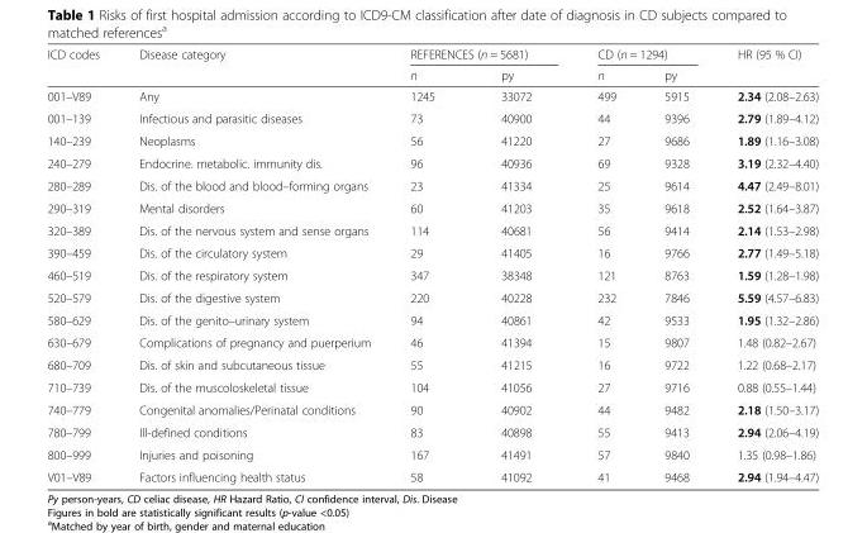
<table><thead><tr><td rowspan="2">ICD codes</td><td rowspan="2">Disease category</td><td colspan="2">REFERENCES (n = 5681)</td><td colspan="2">CD (n = 1294)</td><td rowspan="2">HR (95 % CI)</td></tr><tr><td>n</td><td>py</td><td>n</td><td>py</td></tr></thead><tbody><tr><td>001–V89</td><td>Any</td><td>1245</td><td>33072</td><td>499</td><td>5915</td><td>2.34 (2.08–2.63)</td></tr><tr><td>001–139</td><td>Infectious and parasitic diseases</td><td>73</td><td>40900</td><td>44</td><td>9396</td><td>2.79 (1.89–4.12)</td></tr><tr><td>140–239</td><td>Neoplasms</td><td>56</td><td>41220</td><td>27</td><td>9686</td><td>1.89 (1.16–3.08)</td></tr><tr><td>240–279</td><td>Endocrine. metabolic. immunity dis.</td><td>96</td><td>40936</td><td>69</td><td>9328</td><td>3.19 (2.32–4.40)</td></tr><tr><td>280–289</td><td>Dis. of the blood and blood–forming organs</td><td>23</td><td>41334</td><td>25</td><td>9614</td><td>4.47 (2.49–8.01)</td></tr><tr><td>290–319</td><td>Mental disorders</td><td>60</td><td>41203</td><td>35</td><td>9618</td><td>2.52 (1.64–3.87)</td></tr><tr><td>320–389</td><td>Dis. of the nervous system and sense organs</td><td>114</td><td>40681</td><td>56</td><td>9414</td><td>2.14 (1.53–2.98)</td></tr><tr><td>390–459</td><td>Dis. of the circulatory system</td><td>29</td><td>41405</td><td>16</td><td>9766</td><td>2.77 (1.49–5.18)</td></tr><tr><td>460–519</td><td>Dis. of the respiratory system</td><td>347</td><td>38348</td><td>121</td><td>8763</td><td>1.59 (1.28–1.98)</td></tr><tr><td>520–579</td><td>Dis. of the digestive system</td><td>220</td><td>40228</td><td>232</td><td>7846</td><td>5.59 (4.57–6.83)</td></tr><tr><td>580–629</td><td>Dis. of the genito–urinary system</td><td>94</td><td>40861</td><td>42</td><td>9533</td><td>1.95 (1.32–2.86)</td></tr><tr><td>630–679</td><td>Complications of pregnancy and puerperium</td><td>46</td><td>41394</td><td>15</td><td>9807</td><td>1.48 (0.82–2.67)</td></tr><tr><td>680–709</td><td>Dis. of skin and subcutaneous tissue</td><td>55</td><td>41215</td><td>16</td><td>9722</td><td>1.22 (0.68–2.17)</td></tr><tr><td>710–739</td><td>Dis. of the muscoloskeletal tissue</td><td>104</td><td>41056</td><td>27</td><td>9716</td><td>0.88 (0.55–1.44)</td></tr><tr><td>740–779</td><td>Congenital anomalies/Perinatal conditions</td><td>90</td><td>40902</td><td>44</td><td>9482</td><td>2.18 (1.50–3.17)</td></tr><tr><td>780–799</td><td>Ill-defined conditions</td><td>83</td><td>40898</td><td>55</td><td>9413</td><td>2.94 (2.06–4.19)</td></tr><tr><td>800–999</td><td>Injuries and poisoning</td><td>167</td><td>41491</td><td>57</td><td>9840</td><td>1.35 (0.98–1.86)</td></tr><tr><td>V01–V89</td><td>Factors influencing health status</td><td>58</td><td>41092</td><td>41</td><td>9468</td><td>2.94 (1.94–4.47)</td></tr></tbody></table>